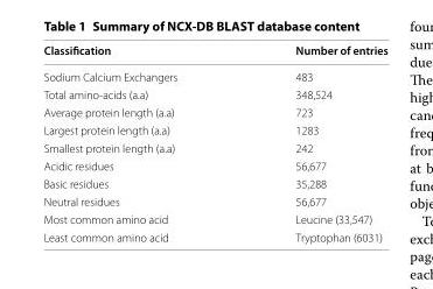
<table><thead><tr><td>Classification</td><td>Number of entries</td></tr></thead><tbody><tr><td>Sodium Calcium Exchangers</td><td>483</td></tr><tr><td>Total amino-acids (a.a)</td><td>348,524</td></tr><tr><td>Average protein length (a.a)</td><td>723</td></tr><tr><td>Largest protein length (a.a)</td><td>1283</td></tr><tr><td>Smallest protein length (a.a)</td><td>242</td></tr><tr><td>Acidic residues</td><td>56,677</td></tr><tr><td>Basic residues</td><td>35,288</td></tr><tr><td>Neutral residues</td><td>56,677</td></tr><tr><td>Most common amino acid</td><td>Leucine (33,547)</td></tr><tr><td>Least common amino acid</td><td>Tryptophan (6031)</td></tr></tbody></table>